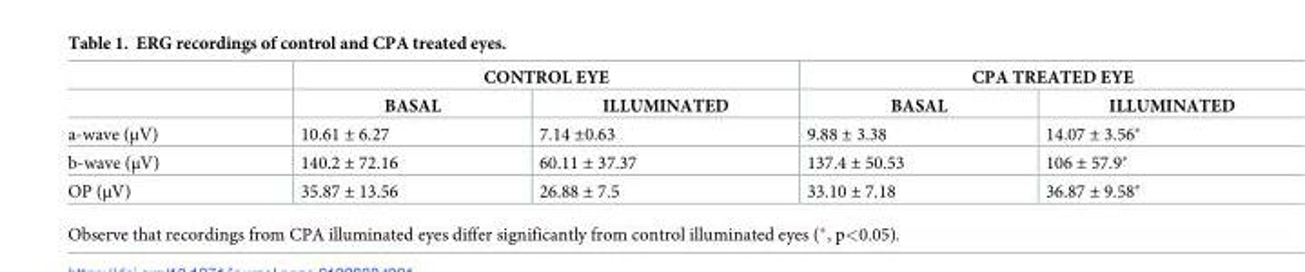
<table><thead><tr><td rowspan="2"></td><td colspan="2">CONTROL EYE</td><td colspan="2">CPA TREATED EYE</td></tr><tr><td>BASAL</td><td>ILLUMINATED</td><td>BASAL</td><td>ILLUMINATED</td></tr></thead><tbody><tr><td>a-wave (μV)</td><td>10.61 ± 6.27</td><td>7.14 ±0.63</td><td>9.88 ± 3.38</td><td>14.07 ± 3.56*</td></tr><tr><td>b-wave (μV)</td><td>140.2 ± 72.16</td><td>60.11 ± 37.37</td><td>137.4 ± 50.53</td><td>106 ± 57.9*</td></tr><tr><td>OP (μV)</td><td>35.87 ± 13.56</td><td>26.88 ± 7.5</td><td>33.10 ± 7.18</td><td>36.87 ± 9.58*</td></tr></tbody></table>